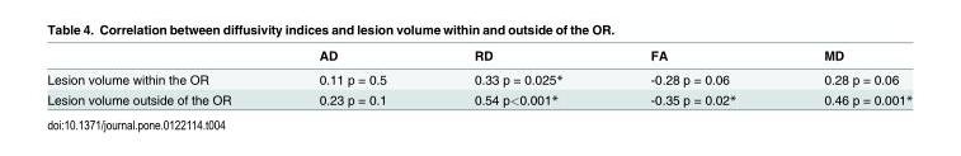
<table><thead><tr><td></td><td>AD</td><td>RD</td><td>FA</td><td>MD</td></tr></thead><tbody><tr><td>Lesion volume within the OR</td><td>0.11 p = 0.5</td><td>0.33 p = 0.025*</td><td>-0.28 p = 0.06</td><td>0.28 p = 0.06</td></tr><tr><td>Lesion volume outside of the OR</td><td>0.23 p = 0.1</td><td>0.54 p&lt;0.001*</td><td>-0.35 p = 0.02*</td><td>0.46 p = 0.001*</td></tr></tbody></table>